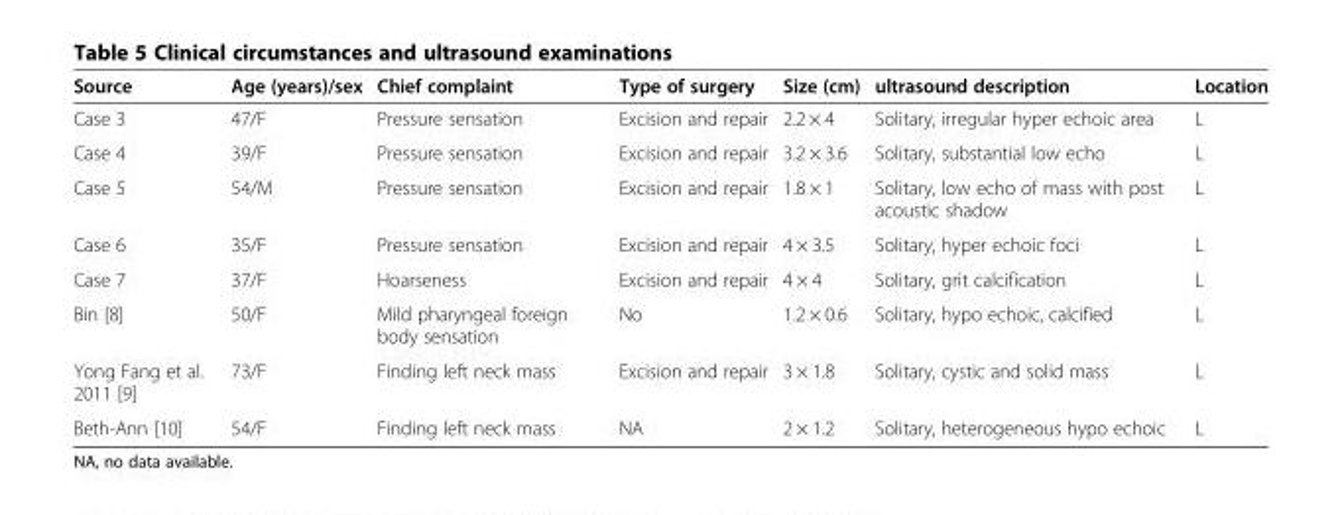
<table><thead><tr><td>Source</td><td>Age (years)/sex</td><td>Chief complaint</td><td>Type of surgery</td><td>Size (cm)</td><td>ultrasound description</td><td>Location</td></tr></thead><tbody><tr><td>Case 3</td><td>47/F</td><td>Pressure sensation</td><td>Excision and repair</td><td>2.2 × 4</td><td>Solitary, irregular hyper echoic area</td><td>L</td></tr><tr><td>Case 4</td><td>39/F</td><td>Pressure sensation</td><td>Excision and repair</td><td>3.2 × 3.6</td><td>Solitary, substantial low echo</td><td>L</td></tr><tr><td>Case 5</td><td>54/M</td><td>Pressure sensation</td><td>Excision and repair</td><td>1.8 × 1</td><td>Solitary, low echo of mass with post acoustic shadow</td><td>L</td></tr><tr><td>Case 6</td><td>35/F</td><td>Pressure sensation</td><td>Excision and repair</td><td>4 × 3.5</td><td>Solitary, hyper echoic foci</td><td>L</td></tr><tr><td>Case 7</td><td>37/F</td><td>Hoarseness</td><td>Excision and repair</td><td>4 × 4</td><td>Solitary, grit calcification</td><td>L</td></tr><tr><td>Bin [8]</td><td>50/F</td><td>Mild pharyngeal foreign body sensation</td><td>No</td><td>1.2 × 0.6</td><td>Solitary, hypo echoic, calcified</td><td>L</td></tr><tr><td>Yong Fang et al. 2011 [9]</td><td>73/F</td><td>Finding left neck mass</td><td>Excision and repair</td><td>3 × 1.8</td><td>Solitary, cystic and solid mass</td><td>L</td></tr><tr><td>Beth-Ann [10]</td><td>54/F</td><td>Finding left neck mass</td><td>NA</td><td>2 × 1.2</td><td>Solitary, heterogeneous hypo echoic</td><td>L</td></tr></tbody></table>